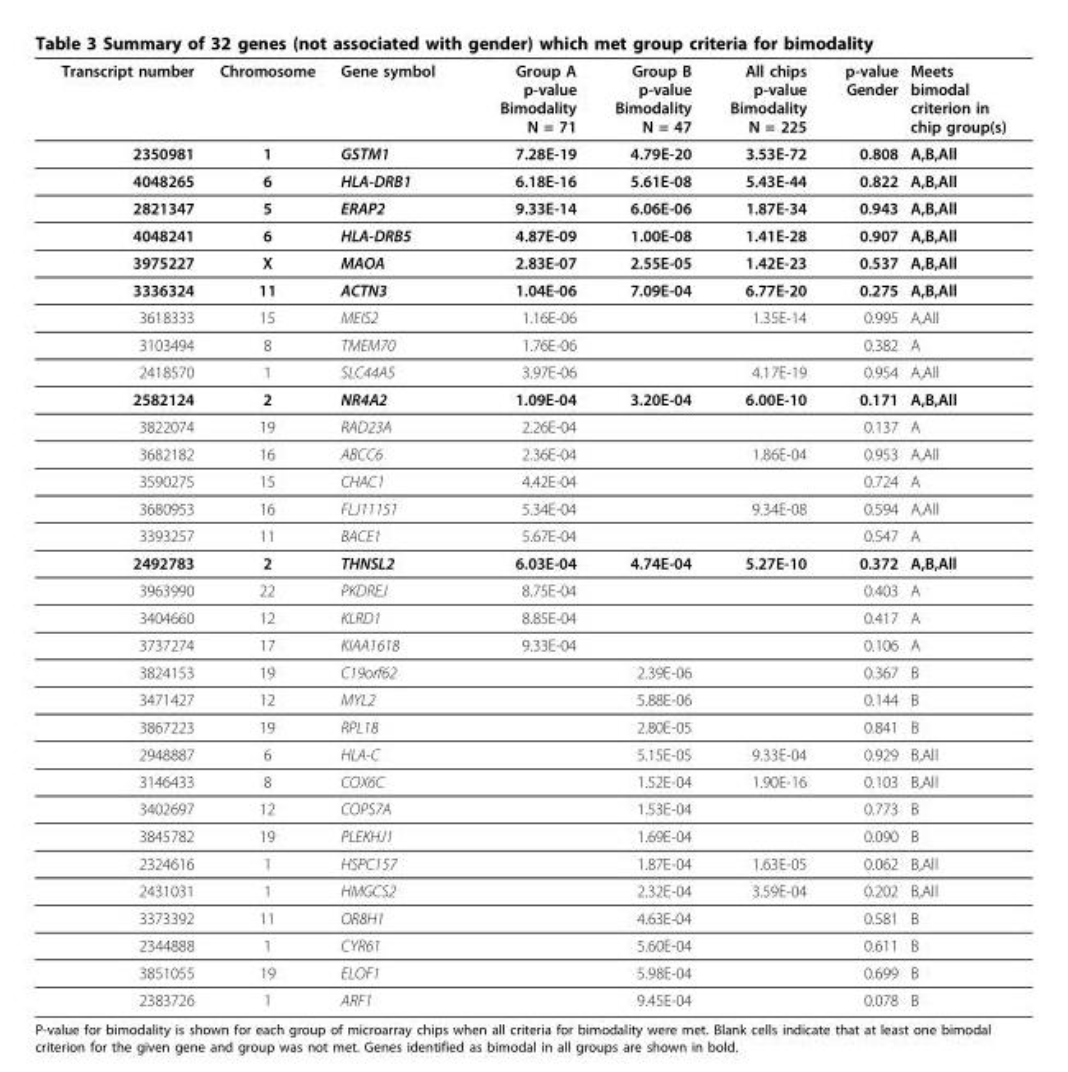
<table><thead><tr><td>Transcript number</td><td>Chromosome</td><td>Gene symbol</td><td>Group A p-value Bimodality N = 71</td><td>Group B p-value Bimodality N = 47</td><td>All chips p-value Bimodality N = 225</td><td>p-value Gender</td><td>Meets bimodal criterion in chip group(s)</td></tr></thead><tbody><tr><td>2350981</td><td>1</td><td>GSTM1</td><td>7.28E-19</td><td>4.79E-20</td><td>3.53E-72</td><td>0.808</td><td>A,B,All</td></tr><tr><td>4048265</td><td>6</td><td>HLA-DRB1</td><td>6.18E-16</td><td>5.61E-08</td><td>5.43E-44</td><td>0.822</td><td>A,B,All</td></tr><tr><td>2821347</td><td>5</td><td>ERAP2</td><td>9.33E-14</td><td>6.06E-06</td><td>1.87E-34</td><td>0.943</td><td>A,B,All</td></tr><tr><td>4048241</td><td>6</td><td>HLA-DRB5</td><td>4.87E-09</td><td>1.00E-08</td><td>1.41E-28</td><td>0.907</td><td>A,B,All</td></tr><tr><td>3975227</td><td>X</td><td>MAOA</td><td>2.83E-07</td><td>2.55E-05</td><td>1.42E-23</td><td>0.537</td><td>A,B,All</td></tr><tr><td>3336324</td><td>11</td><td>ACTN3</td><td>1.04E-06</td><td>7.09E-04</td><td>6.77E-20</td><td>0.275</td><td>A,B,All</td></tr><tr><td>3618333</td><td>15</td><td>MEIS2</td><td>1.16E-06</td><td></td><td>1.35E-14</td><td>0.995</td><td>A,All</td></tr><tr><td>3103494</td><td>8</td><td>TMEM70</td><td>1.76E-06</td><td></td><td></td><td>0.382</td><td>A</td></tr><tr><td>2418570</td><td>1</td><td>SLC44A5</td><td>3.97E-06</td><td></td><td>4.17E-19</td><td>0.954</td><td>A,All</td></tr><tr><td>2582124</td><td>2</td><td>NR4A2</td><td>1.09E-04</td><td>3.20E-04</td><td>6.00E-10</td><td>0.171</td><td>A,B,All</td></tr><tr><td>3822074</td><td>19</td><td>RAD23A</td><td>2.26E-04</td><td></td><td></td><td>0.137</td><td>A</td></tr><tr><td>3682182</td><td>16</td><td>ABCC6</td><td>2.36E-04</td><td></td><td>1.86E-04</td><td>0.953</td><td>A,All</td></tr><tr><td>3590275</td><td>15</td><td>CHAC1</td><td>4.42E-04</td><td></td><td></td><td>0.724</td><td>A</td></tr><tr><td>3680953</td><td>16</td><td>FLJ11151</td><td>5.34E-04</td><td></td><td>9.34E-08</td><td>0.594</td><td>A,All</td></tr><tr><td>3393257</td><td>11</td><td>BACE1</td><td>5.67E-04</td><td></td><td></td><td>0.547</td><td>A</td></tr><tr><td>2492783</td><td>2</td><td>THNSL2</td><td>6.03E-04</td><td>4.74E-04</td><td>5.27E-10</td><td>0.372</td><td>A,B,All</td></tr><tr><td>3963990</td><td>22</td><td>PKDREJ</td><td>8.75E-04</td><td></td><td></td><td>0.403</td><td>A</td></tr><tr><td>3404660</td><td>12</td><td>KLRD1</td><td>8.85E-04</td><td></td><td></td><td>0.417</td><td>A</td></tr><tr><td>3737274</td><td>17</td><td>KIAA1618</td><td>9.33E-04</td><td></td><td></td><td>0.106</td><td>A</td></tr><tr><td>3824153</td><td>19</td><td>C19orf62</td><td></td><td>2.39E-06</td><td></td><td>0.367</td><td>B</td></tr><tr><td>3471427</td><td>12</td><td>MYL2</td><td></td><td>5.88E-06</td><td></td><td>0.144</td><td>B</td></tr><tr><td>3867223</td><td>19</td><td>RPL18</td><td></td><td>2.80E-05</td><td></td><td>0.841</td><td>B</td></tr><tr><td>2948887</td><td>6</td><td>HLA-C</td><td></td><td>5.15E-05</td><td>9.33E-04</td><td>0.929</td><td>B,All</td></tr><tr><td>3146433</td><td>8</td><td>COX6C</td><td></td><td>1.52E-04</td><td>1.90E-16</td><td>0.103</td><td>B,All</td></tr><tr><td>3402697</td><td>12</td><td>COPS7A</td><td></td><td>1.53E-04</td><td></td><td>0.773</td><td>B</td></tr><tr><td>3845782</td><td>19</td><td>PLEKHJ1</td><td></td><td>1.69E-04</td><td></td><td>0.090</td><td>B</td></tr><tr><td>2324616</td><td>1</td><td>HSPC157</td><td></td><td>1.87E-04</td><td>1.63E-05</td><td>0.062</td><td>B,All</td></tr><tr><td>2431031</td><td>1</td><td>HMGCS2</td><td></td><td>2.32E-04</td><td>3.59E-04</td><td>0.202</td><td>B,All</td></tr><tr><td>3373392</td><td>11</td><td>OR8H1</td><td></td><td>4.63E-04</td><td></td><td>0.581</td><td>B</td></tr><tr><td>2344888</td><td>1</td><td>CYR61</td><td></td><td>5.60E-04</td><td></td><td>0.611</td><td>B</td></tr><tr><td>3851055</td><td>19</td><td>ELOF1</td><td></td><td>5.98E-04</td><td></td><td>0.699</td><td>B</td></tr><tr><td>2383726</td><td>1</td><td>ARF1</td><td></td><td>9.45E-04</td><td></td><td>0.078</td><td>B</td></tr></tbody></table>